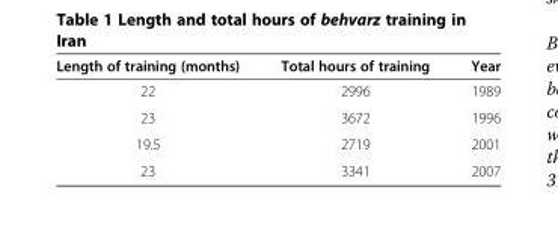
<table><thead><tr><td>Length of training (months)</td><td>Total hours of training</td><td>Year</td></tr></thead><tbody><tr><td>22</td><td>2996</td><td>1989</td></tr><tr><td>23</td><td>3672</td><td>1996</td></tr><tr><td>19.5</td><td>2719</td><td>2001</td></tr><tr><td>23</td><td>3341</td><td>2007</td></tr></tbody></table>